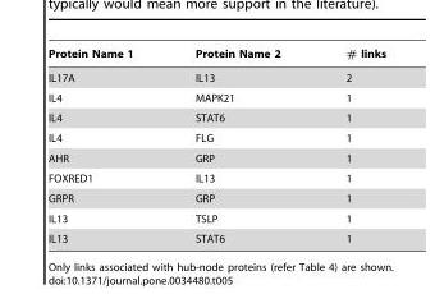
<table><thead><tr><td>Protein Name 1</td><td>Protein Name 2</td><td># links</td></tr></thead><tbody><tr><td>IL17A</td><td>IL13</td><td>2</td></tr><tr><td>IL4</td><td>MAPK21</td><td>1</td></tr><tr><td>IL4</td><td>STAT6</td><td>1</td></tr><tr><td>IL4</td><td>FLG</td><td>1</td></tr><tr><td>AHR</td><td>GRP</td><td>1</td></tr><tr><td>FOXRED1</td><td>IL13</td><td>1</td></tr><tr><td>GRPR</td><td>GRP</td><td>1</td></tr><tr><td>IL13</td><td>TSLP</td><td>1</td></tr><tr><td>IL13</td><td>STAT6</td><td>1</td></tr></tbody></table>